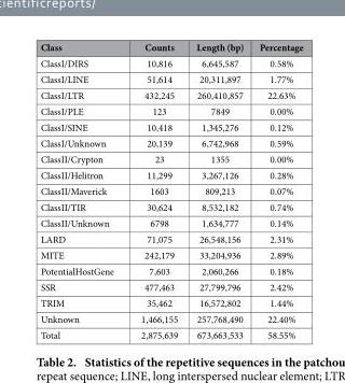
<table><thead><tr><td>Class</td><td>Counts</td><td>Length (bp)</td><td>Percentage</td></tr></thead><tbody><tr><td>ClassI/DIRS</td><td>10,816</td><td>6,645,587</td><td>0.58%</td></tr><tr><td>ClassI/LINE</td><td>51,614</td><td>20,311,897</td><td>1.77%</td></tr><tr><td>ClassI/LTR</td><td>432,245</td><td>260,410,857</td><td>22.63%</td></tr><tr><td>ClassI/PLE</td><td>123</td><td>7849</td><td>0.00%</td></tr><tr><td>ClassI/SINE</td><td>10,418</td><td>1,345,276</td><td>0.12%</td></tr><tr><td>ClassI/Unknown</td><td>20,139</td><td>6,742,968</td><td>0.59%</td></tr><tr><td>ClassII/Crypton</td><td>23</td><td>1355</td><td>0.00%</td></tr><tr><td>ClassII/Helitron</td><td>11,299</td><td>3,267,126</td><td>0.28%</td></tr><tr><td>ClassII/Maverick</td><td>1603</td><td>809,213</td><td>0.07%</td></tr><tr><td>ClassII/TIR</td><td>30,624</td><td>8,532,182</td><td>0.74%</td></tr><tr><td>ClassII/Unknown</td><td>6798</td><td>1,634,777</td><td>0.14%</td></tr><tr><td>LARD</td><td>71,075</td><td>26,548,156</td><td>2.31%</td></tr><tr><td>MITE</td><td>242,179</td><td>33,204,936</td><td>2.89%</td></tr><tr><td>PotentialHostGene</td><td>7,603</td><td>2,060,266</td><td>0.18%</td></tr><tr><td>SSR</td><td>477,463</td><td>27,799,796</td><td>2.42%</td></tr><tr><td>TRIM</td><td>35,462</td><td>16,572,802</td><td>1.44%</td></tr><tr><td>Unknown</td><td>1,466,155</td><td>257,768,490</td><td>22.40%</td></tr><tr><td>Total</td><td>2,875,639</td><td>673,663,533</td><td>58.55%</td></tr></tbody></table>